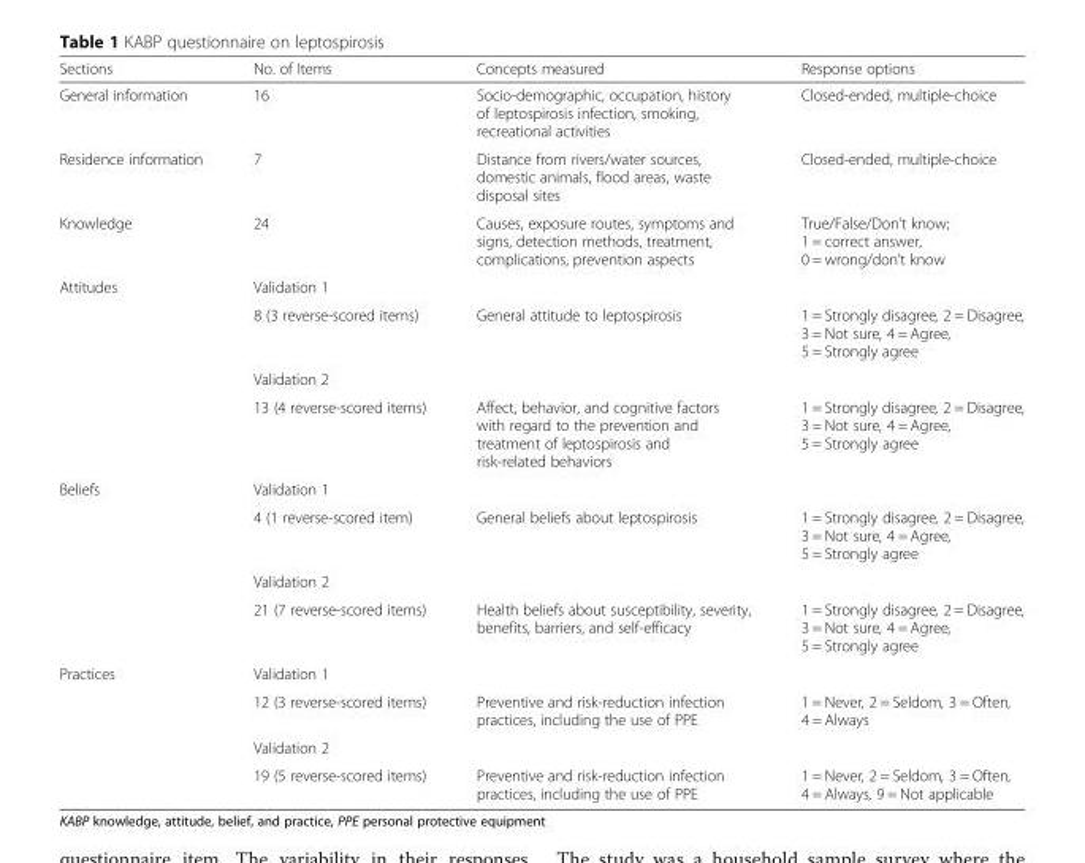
<table><thead><tr><td>Sections</td><td>No. of Items</td><td>Concepts measured</td><td>Response options</td></tr></thead><tbody><tr><td>General information</td><td>16</td><td>Socio-demographic, occupation, history of leptospirosis infection, smoking, recreational activities</td><td>Closed-ended, multiple-choice</td></tr><tr><td>Residence information</td><td>7</td><td>Distance from rivers/water sources, domestic animals, flood areas, waste disposal sites</td><td>Closed-ended, multiple-choice</td></tr><tr><td>Knowledge</td><td>24</td><td>Causes, exposure routes, symptoms and signs, detection methods, treatment, complications, prevention aspects</td><td>True/False/Don’t know; 1 = correct answer, 0 = wrong/don’t know</td></tr><tr><td rowspan="4">Attitudes</td><td colspan="3">Validation 1</td></tr><tr><td>8 (3 reverse-scored items)</td><td>General attitude to leptospirosis</td><td>1 = Strongly disagree, 2 = Disagree, 3 = Not sure, 4 = Agree, 5 = Strongly agree</td></tr><tr><td colspan="3">Validation 2</td></tr><tr><td>13 (4 reverse-scored items)</td><td>Affect, behavior, and cognitive factors with regard to the prevention and treatment of leptospirosis and risk-related behaviors</td><td>1 = Strongly disagree, 2 = Disagree, 3 = Not sure, 4 = Agree, 5 = Strongly agree</td></tr><tr><td rowspan="4">Beliefs</td><td colspan="3">Validation 1</td></tr><tr><td>4 (1 reverse-scored item)</td><td>General beliefs about leptospirosis</td><td>1 = Strongly disagree, 2 = Disagree, 3 = Not sure, 4 = Agree, 5 = Strongly agree</td></tr><tr><td colspan="3">Validation 2</td></tr><tr><td>21 (7 reverse-scored items)</td><td>Health beliefs about susceptibility, severity, benefits, barriers, and self-efficacy</td><td>1 = Strongly disagree, 2 = Disagree, 3 = Not sure, 4 = Agree, 5 = Strongly agree</td></tr><tr><td rowspan="4">Practices</td><td colspan="3">Validation 1</td></tr><tr><td>12 (3 reverse-scored items)</td><td>Preventive and risk-reduction infection practices, including the use of PPE</td><td>1 = Never, 2 = Seldom, 3 = Often, 4 = Always</td></tr><tr><td colspan="3">Validation 2</td></tr><tr><td>19 (5 reverse-scored items)</td><td>Preventive and risk-reduction infection practices, including the use of PPE</td><td>1 = Never, 2 = Seldom, 3 = Often, 4 = Always, 9 = Not applicable</td></tr></tbody></table>